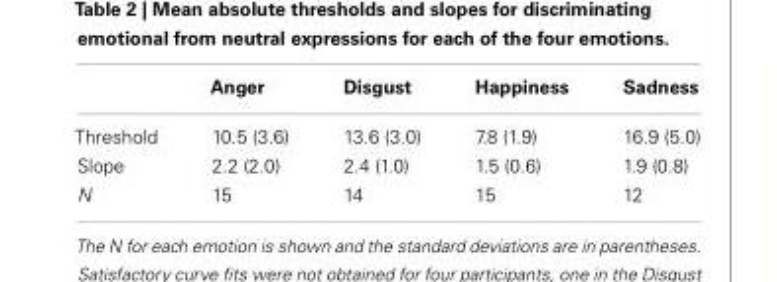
<table><thead><tr><td></td><td>Anger</td><td>Disgust</td><td>Happiness</td><td>Sadness</td></tr></thead><tbody><tr><td>Threshold</td><td>10.5 (3.6)</td><td>13.6 (3.0)</td><td>7.8 (1.9)</td><td>16.9 (5.0)</td></tr><tr><td>Slope</td><td>2.2 (2.0)</td><td>2.4 (1.0)</td><td>1.5 (0.6)</td><td>1.9 (0.8)</td></tr><tr><td>N</td><td>15</td><td>14</td><td>15</td><td>12</td></tr></tbody></table>